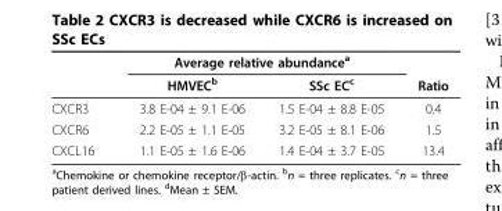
<table><thead><tr><td rowspan="2"></td><td colspan="2">Average relative abundance<sup>a</sup></td><td rowspan="2">Ratio</td></tr><tr><td>HMVEC<sup>b</sup></td><td>SSc EC<sup>c</sup></td></tr></thead><tbody><tr><td>CXCR3</td><td>3.8 E-04 ± 9.1 E-06</td><td>1.5 E-04 ± 8.8 E-05</td><td>0.4</td></tr><tr><td>CXCR6</td><td>2.2 E-05 ± 1.1 E-05</td><td>3.2 E-05 ± 8.1 E-06</td><td>1.5</td></tr><tr><td>CXCL16</td><td>1.1 E-05 ± 1.6 E-06</td><td>1.4 E-04 ± 3.7 E-05</td><td>13.4</td></tr></tbody></table>